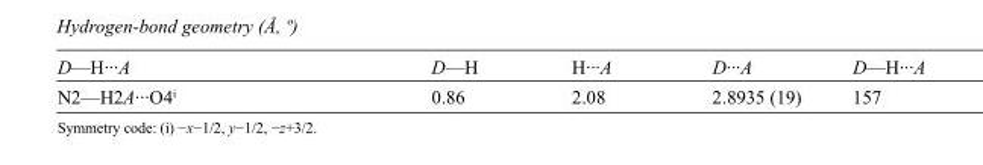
<table><tbody><tr><td>D—H···A</td><td>D—H</td><td>H···A</td><td>D···A</td><td>D—H···A</td></tr><tr><td>N2—H2A···O4<sup>i</sup></td><td>0.86</td><td>2.08</td><td>2.8935 (19)</td><td>157</td></tr></tbody></table>